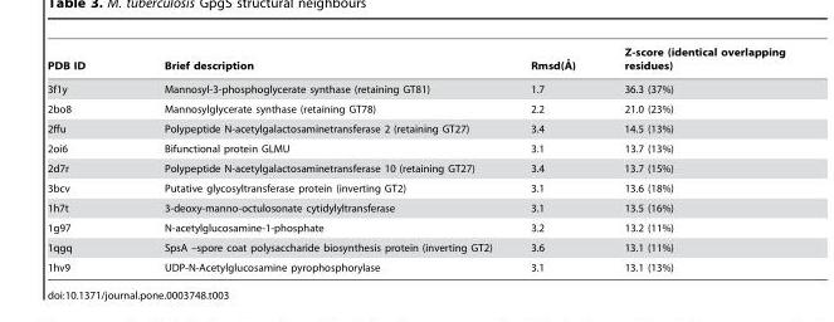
<table><thead><tr><td>PDB ID</td><td>Brief description</td><td>Rmsd(A˚)</td><td>Z-score (identical overlapping residues)</td></tr></thead><tbody><tr><td>3f1y</td><td>Mannosyl-3-phosphoglycerate synthase (retaining GT81)</td><td>1.7</td><td>36.3 (37%)</td></tr><tr><td>2bo8</td><td>Mannosylglycerate synthase (retaining GT78)</td><td>2.2</td><td>21.0 (23%)</td></tr><tr><td>2ffu</td><td>Polypeptide N-acetylgalactosaminetransferase 2 (retaining GT27)</td><td>3.4</td><td>14.5 (13%)</td></tr><tr><td>2oi6</td><td>Bifunctional protein GLMU</td><td>3.1</td><td>13.7 (13%)</td></tr><tr><td>2d7r</td><td>Polypeptide N-acetylgalactosaminetransferase 10 (retaining GT27)</td><td>3.4</td><td>13.7 (15%)</td></tr><tr><td>3bcv</td><td>Putative glycosyltransferase protein (inverting GT2)</td><td>3.1</td><td>13.6 (18%)</td></tr><tr><td>1h7t</td><td>3-deoxy-manno-octulosonate cytidylyltransferase</td><td>3.1</td><td>13.5 (16%)</td></tr><tr><td>1g97</td><td>N-acetylglucosamine-1-phosphate</td><td>3.2</td><td>13.2 (11%)</td></tr><tr><td>1qgq</td><td>SpsA –spore coat polysaccharide biosynthesis protein (inverting GT2)</td><td>3.6</td><td>13.1 (11%)</td></tr><tr><td>1hv9</td><td>UDP-N-Acetylglucosamine pyrophosphorylase</td><td>3.1</td><td>13.1 (13%)</td></tr></tbody></table>